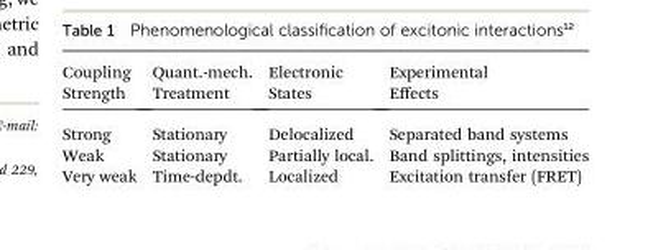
<table><thead><tr><td>Coupling Strength</td><td>Quant.-mech. Treatment</td><td>Electronic States</td><td>Experimental Effects</td></tr></thead><tbody><tr><td>Strong</td><td>Stationary</td><td>Delocalized</td><td>Separated band systems</td></tr><tr><td>Weak</td><td>Stationary</td><td>Partially local.</td><td>Band splittings, intensities</td></tr><tr><td>Very weak</td><td>Time-depdt.</td><td>Localized</td><td>Excitation transfer (FRET)</td></tr></tbody></table>